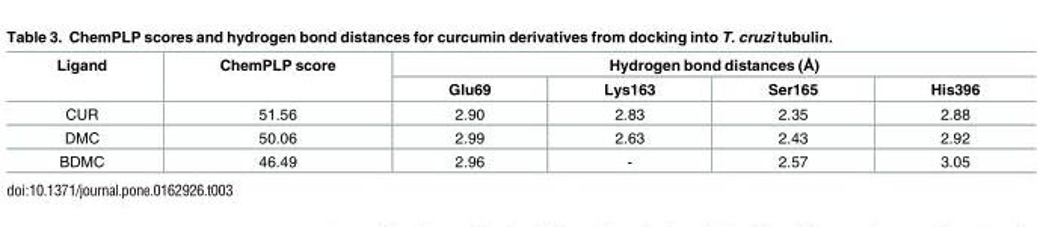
<table><thead><tr><td rowspan="2">Ligand</td><td rowspan="2">ChemPLP score</td><td colspan="4">Hydrogen bond distances (Å)</td></tr><tr><td>Glu69</td><td>Lys163</td><td>Ser165</td><td>His396</td></tr></thead><tbody><tr><td>CUR</td><td>51.56</td><td>2.90</td><td>2.83</td><td>2.35</td><td>2.88</td></tr><tr><td>DMC</td><td>50.06</td><td>2.99</td><td>2.63</td><td>2.43</td><td>2.92</td></tr><tr><td>BDMC</td><td>46.49</td><td>2.96</td><td>-</td><td>2.57</td><td>3.05</td></tr></tbody></table>